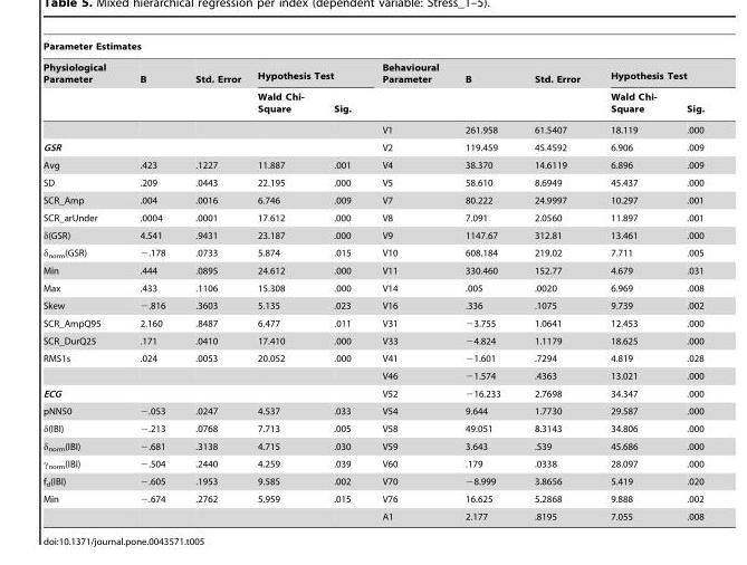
<table><thead><tr><td colspan="10">Parameter Estimates</td></tr><tr><td rowspan="2">Physiological Parameter</td><td rowspan="2">B</td><td rowspan="2">Std. Error</td><td colspan="2">Hypothesis Test</td><td rowspan="2">Behavioural Parameter</td><td rowspan="2">B</td><td rowspan="2">Std. Error</td><td colspan="2">Hypothesis Test</td></tr><tr><td>Wald Chi- Square</td><td>Sig.</td><td>Wald Chi- Square</td><td>Sig.</td></tr></thead><tbody><tr><td></td><td></td><td></td><td></td><td></td><td>V1</td><td>261.958</td><td>61.5407</td><td>18.119</td><td>.000</td></tr><tr><td>GSR</td><td></td><td></td><td></td><td></td><td>V2</td><td>119.459</td><td>45.4592</td><td>6.906</td><td>.009</td></tr><tr><td>Avg</td><td>.423</td><td>.1227</td><td>11.887</td><td>.001</td><td>V4</td><td>38.370</td><td>14.6119</td><td>6.896</td><td>.009</td></tr><tr><td>SD</td><td>.209</td><td>.0443</td><td>22.195</td><td>.000</td><td>V5</td><td>58.610</td><td>8.6949</td><td>45.437</td><td>.000</td></tr><tr><td>SCR_Amp</td><td>.004</td><td>.0016</td><td>6.746</td><td>.009</td><td>V7</td><td>80.222</td><td>24.9997</td><td>10.297</td><td>.001</td></tr><tr><td>SCR_arUnder</td><td>.0004</td><td>.0001</td><td>17.612</td><td>.000</td><td>V8</td><td>7.091</td><td>2.0560</td><td>11.897</td><td>.001</td></tr><tr><td>δ(GSR)</td><td>4.541</td><td>.9431</td><td>23.187</td><td>.000</td><td>V9</td><td>1147.67</td><td>312.81</td><td>13.461</td><td>.000</td></tr><tr><td>δ<sub>norm</sub>(GSR)</td><td>−.178</td><td>.0733</td><td>5.874</td><td>.015</td><td>V10</td><td>608.184</td><td>219.02</td><td>7.711</td><td>.005</td></tr><tr><td>Min</td><td>.444</td><td>.0895</td><td>24.612</td><td>.000</td><td>V11</td><td>330.460</td><td>152.77</td><td>4.679</td><td>.031</td></tr><tr><td>Max</td><td>.433</td><td>.1106</td><td>15.308</td><td>.000</td><td>V14</td><td>.005</td><td>.0020</td><td>6.969</td><td>.008</td></tr><tr><td>Skew</td><td>−.816</td><td>.3603</td><td>5.135</td><td>.023</td><td>V16</td><td>.336</td><td>.1075</td><td>9.739</td><td>.002</td></tr><tr><td>SCR_AmpQ95</td><td>2.160</td><td>.8487</td><td>6.477</td><td>.011</td><td>V31</td><td>−3.755</td><td>1.0641</td><td>12.453</td><td>.000</td></tr><tr><td>SCR_DurQ25</td><td>.171</td><td>.0410</td><td>17.410</td><td>.000</td><td>V33</td><td>−4.824</td><td>1.1179</td><td>18.625</td><td>.000</td></tr><tr><td rowspan="2">RMS1s</td><td>.024</td><td>.0053</td><td>20.052</td><td>.000</td><td>V41</td><td>−1.601</td><td>.7294</td><td>4.819</td><td>.028</td></tr><tr><td></td><td></td><td></td><td></td><td>V46</td><td>−1.574</td><td>.4363</td><td>13.021</td><td>.000</td></tr><tr><td>ECG</td><td></td><td></td><td></td><td></td><td>V52</td><td>−16.233</td><td>2.7698</td><td>34.347</td><td>.000</td></tr><tr><td>pNN50</td><td>−.053</td><td>.0247</td><td>4.537</td><td>.033</td><td>V54</td><td>9.644</td><td>1.7730</td><td>29.587</td><td>.000</td></tr><tr><td>δ(IBI)</td><td>−.213</td><td>.0768</td><td>7.713</td><td>.005</td><td>V58</td><td>49.051</td><td>8.3143</td><td>34.806</td><td>.000</td></tr><tr><td>δ<sub>norm</sub>(IBI)</td><td>−.681</td><td>.3138</td><td>4.715</td><td>.030</td><td>V59</td><td>3.643</td><td>.539</td><td>45.686</td><td>.000</td></tr><tr><td>γ<sub>norm</sub>(IBI)</td><td>−.504</td><td>.2440</td><td>4.259</td><td>.039</td><td>V60</td><td>.179</td><td>.0338</td><td>28.097</td><td>.000</td></tr><tr><td>f<sub>d</sub>(IBI)</td><td>−.605</td><td>.1953</td><td>9.585</td><td>.002</td><td>V70</td><td>−8.999</td><td>3.8656</td><td>5.419</td><td>.020</td></tr><tr><td rowspan="2">Min</td><td>−.674</td><td>.2762</td><td>5.959</td><td>.015</td><td>V76</td><td>16.625</td><td>5.2868</td><td>9.888</td><td>.002</td></tr><tr><td></td><td></td><td></td><td></td><td>A1</td><td>2.177</td><td>.8195</td><td>7.055</td><td>.008</td></tr></tbody></table>